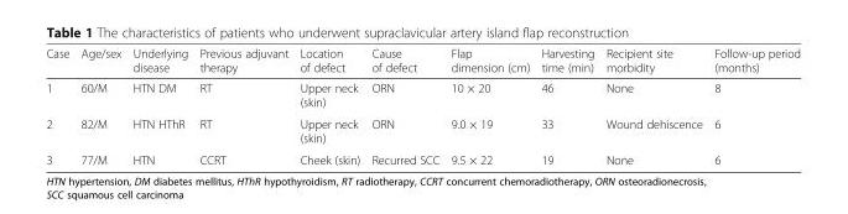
<table><thead><tr><td>Case</td><td>Age/sex</td><td>Underlying disease</td><td>Previous adjuvant therapy</td><td>Location of defect</td><td>Cause of defect</td><td>Flap dimension (cm)</td><td>Harvesting time (min)</td><td>Recipient site morbidity</td><td>Follow-up period (months)</td></tr></thead><tbody><tr><td>1</td><td>60/M</td><td>HTN DM</td><td>RT</td><td>Upper neck (skin)</td><td>ORN</td><td>10 × 20</td><td>46</td><td>None</td><td>8</td></tr><tr><td>2</td><td>82/M</td><td>HTN HThR</td><td>RT</td><td>Upper neck (skin)</td><td>ORN</td><td>9.0 × 19</td><td>33</td><td>Wound dehiscence</td><td>6</td></tr><tr><td>3</td><td>77/M</td><td>HTN</td><td>CCRT</td><td>Cheek (skin)</td><td>Recurred SCC</td><td>9.5 × 22</td><td>19</td><td>None</td><td>6</td></tr></tbody></table>